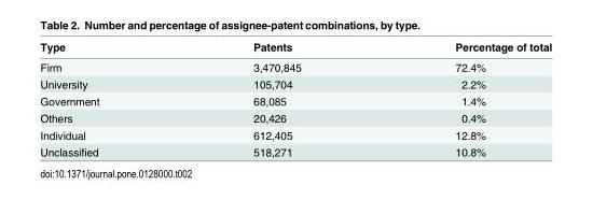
<table><thead><tr><td>Type</td><td>Patents</td><td>Percentage of total</td></tr></thead><tbody><tr><td>Firm</td><td>3,470,845</td><td>72.4%</td></tr><tr><td>University</td><td>105,704</td><td>2.2%</td></tr><tr><td>Government</td><td>68,085</td><td>1.4%</td></tr><tr><td>Others</td><td>20,426</td><td>0.4%</td></tr><tr><td>Individual</td><td>612,405</td><td>12.8%</td></tr><tr><td>Unclassified</td><td>518,271</td><td>10.8%</td></tr></tbody></table>